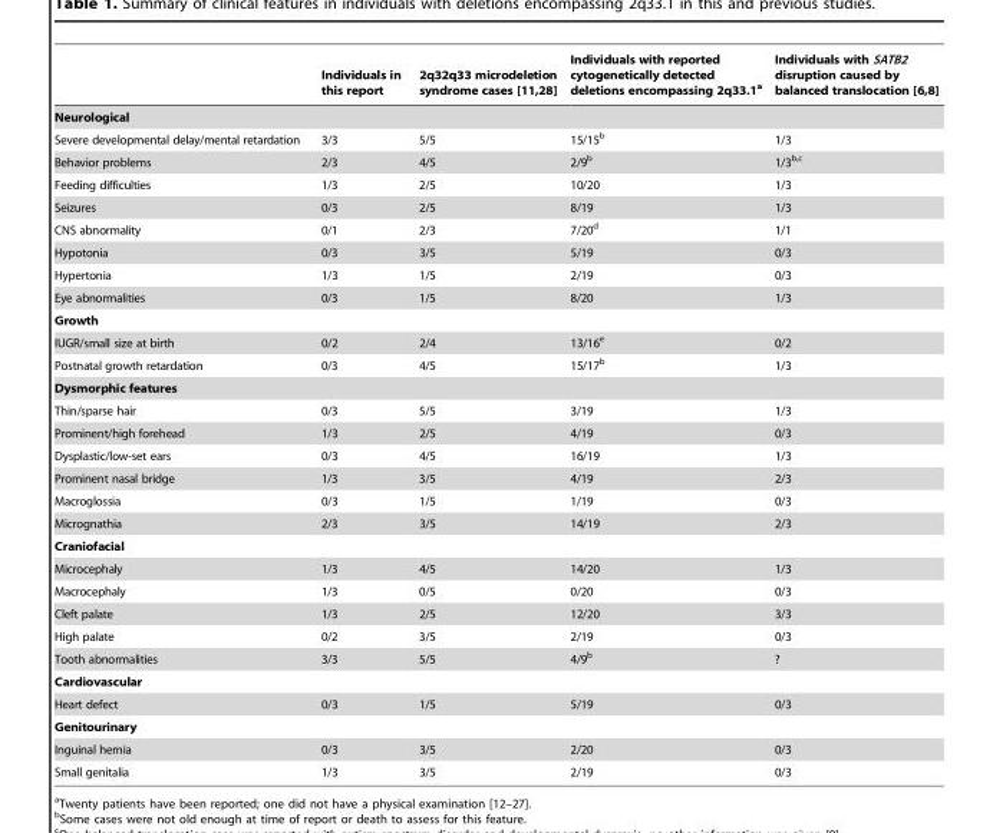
<table><thead><tr><td></td><td>Individuals in this report</td><td>2q32q33 microdeletion syndrome cases [11,28]</td><td>Individuals with reported cytogenetically detected deletions encompassing 2q33.1<sup>a</sup></td><td>Individuals with SATB2 disruption caused by balanced translocation [6,8]</td></tr></thead><tbody><tr><td colspan="5">Neurological</td></tr><tr><td>Severe developmental delay/mental retardation</td><td>3/3</td><td>5/5</td><td>15/15<sup>b</sup></td><td>1/3</td></tr><tr><td>Behavior problems</td><td>2/3</td><td>4/5</td><td>2/9<sup>b</sup></td><td>1/3b,c</td></tr><tr><td>Feeding difficulties</td><td>1/3</td><td>2/5</td><td>10/20</td><td>1/3</td></tr><tr><td>Seizures</td><td>0/3</td><td>2/5</td><td>8/19</td><td>1/3</td></tr><tr><td>CNS abnormality</td><td>0/1</td><td>2/3</td><td>7/20<sup>d</sup></td><td>1/1</td></tr><tr><td>Hypotonia</td><td>0/3</td><td>3/5</td><td>5/19</td><td>0/3</td></tr><tr><td>Hypertonia</td><td>1/3</td><td>1/5</td><td>2/19</td><td>0/3</td></tr><tr><td>Eye abnormalities</td><td>0/3</td><td>1/5</td><td>8/20</td><td>1/3</td></tr><tr><td colspan="5">Growth</td></tr><tr><td>IUGR/small size at birth</td><td>0/2</td><td>2/4</td><td>13/16<sup>e</sup></td><td>0/2</td></tr><tr><td>Postnatal growth retardation</td><td>0/3</td><td>4/5</td><td>15/17<sup>b</sup></td><td>1/3</td></tr><tr><td colspan="5">Dysmorphic features</td></tr><tr><td>Thin/sparse hair</td><td>0/3</td><td>5/5</td><td>3/19</td><td>1/3</td></tr><tr><td>Prominent/high forehead</td><td>1/3</td><td>2/5</td><td>4/19</td><td>0/3</td></tr><tr><td>Dysplastic/low-set ears</td><td>0/3</td><td>4/5</td><td>16/19</td><td>1/3</td></tr><tr><td>Prominent nasal bridge</td><td>1/3</td><td>3/5</td><td>4/19</td><td>2/3</td></tr><tr><td>Macroglossia</td><td>0/3</td><td>1/5</td><td>1/19</td><td>0/3</td></tr><tr><td>Micrognathia</td><td>2/3</td><td>3/5</td><td>14/19</td><td>2/3</td></tr><tr><td colspan="5">Craniofacial</td></tr><tr><td>Microcephaly</td><td>1/3</td><td>4/5</td><td>14/20</td><td>1/3</td></tr><tr><td>Macrocephaly</td><td>1/3</td><td>0/5</td><td>0/20</td><td>0/3</td></tr><tr><td>Cleft palate</td><td>1/3</td><td>2/5</td><td>12/20</td><td>3/3</td></tr><tr><td>High palate</td><td>0/2</td><td>3/5</td><td>2/19</td><td>0/3</td></tr><tr><td>Tooth abnormalities</td><td>3/3</td><td>5/5</td><td>4/9<sup>b</sup></td><td>?</td></tr><tr><td colspan="5">Cardiovascular</td></tr><tr><td>Heart defect</td><td>0/3</td><td>1/5</td><td>5/19</td><td>0/3</td></tr><tr><td colspan="5">Genitourinary</td></tr><tr><td>Inguinal hernia</td><td>0/3</td><td>3/5</td><td>2/20</td><td>0/3</td></tr><tr><td>Small genitalia</td><td>1/3</td><td>3/5</td><td>2/19</td><td>0/3</td></tr></tbody></table>